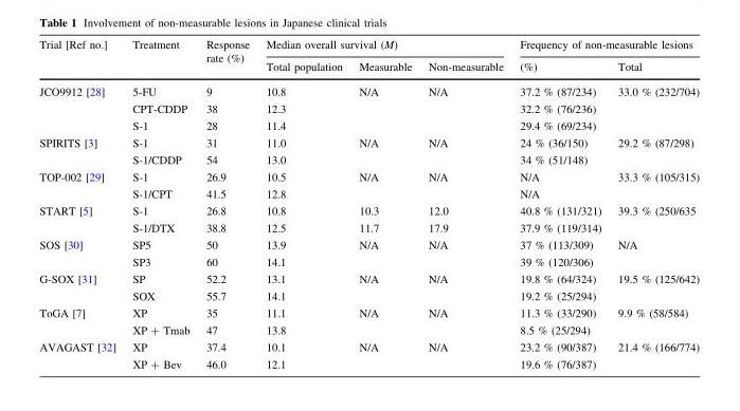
<table><thead><tr><td rowspan="2">Trial [Ref no.]</td><td rowspan="2">Treatment</td><td rowspan="2">Response rate (%)</td><td colspan="3">Median overall survival (M)</td><td colspan="2">Frequency of non-measurable lesions</td></tr><tr><td>Total population</td><td>Measurable</td><td>Non-measurable</td><td>(%)</td><td>Total</td></tr></thead><tbody><tr><td rowspan="3">JCO9912 [28]</td><td>5-FU</td><td>9</td><td>10.8</td><td rowspan="3">N/A</td><td rowspan="3">N/A</td><td>37.2 % (87/234)</td><td rowspan="3">33.0 % (232/704)</td></tr><tr><td>CPT-CDDP</td><td>38</td><td>12.3</td><td>32.2 % (76/236)</td></tr><tr><td>S-1</td><td>28</td><td>11.4</td><td>29.4 % (69/234)</td></tr><tr><td rowspan="2">SPIRITS [3]</td><td>S-1</td><td>31</td><td>11.0</td><td rowspan="2">N/A</td><td rowspan="2">N/A</td><td>24 % (36/150)</td><td rowspan="2">29.2 % (87/298)</td></tr><tr><td>S-1/CDDP</td><td>54</td><td>13.0</td><td>34 % (51/148)</td></tr><tr><td rowspan="2">TOP-002 [29]</td><td>S-1</td><td>26.9</td><td>10.5</td><td rowspan="2">N/A</td><td rowspan="2">N/A</td><td>N/A</td><td rowspan="2">33.3 % (105/315)</td></tr><tr><td>S-1/CPT</td><td>41.5</td><td>12.8</td><td>N/A</td></tr><tr><td rowspan="2">START [5]</td><td>S-1</td><td>26.8</td><td>10.8</td><td>10.3</td><td>12.0</td><td>40.8 % (131/321)</td><td rowspan="2">39.3 % (250/635</td></tr><tr><td>S-1/DTX</td><td>38.8</td><td>12.5</td><td>11.7</td><td>17.9</td><td>37.9 % (119/314)</td></tr><tr><td rowspan="2">SOS [30]</td><td>SP5</td><td>50</td><td>13.9</td><td rowspan="2">N/A</td><td rowspan="2">N/A</td><td>37 % (113/309)</td><td rowspan="2">N/A</td></tr><tr><td>SP3</td><td>60</td><td>14.1</td><td>39 % (120/306)</td></tr><tr><td rowspan="2">G-SOX [31]</td><td>SP</td><td>52.2</td><td>13.1</td><td rowspan="2">N/A</td><td rowspan="2">N/A</td><td>19.8 % (64/324)</td><td rowspan="2">19.5 % (125/642)</td></tr><tr><td>SOX</td><td>55.7</td><td>14.1</td><td>19.2 % (25/294)</td></tr><tr><td rowspan="2">ToGA [7]</td><td>XP</td><td>35</td><td>11.1</td><td rowspan="2">N/A</td><td rowspan="2">N/A</td><td>11.3 % (33/290)</td><td rowspan="2">9.9 % (58/584)</td></tr><tr><td>XP + Tmab</td><td>47</td><td>13.8</td><td>8.5 % (25/294)</td></tr><tr><td rowspan="2">AVAGAST [32]</td><td>XP</td><td>37.4</td><td>10.1</td><td rowspan="2">N/A</td><td rowspan="2">N/A</td><td>23.2 % (90/387)</td><td rowspan="2">21.4 % (166/774)</td></tr><tr><td>XP + Bev</td><td>46.0</td><td>12.1</td><td>19.6 % (76/387)</td></tr></tbody></table>